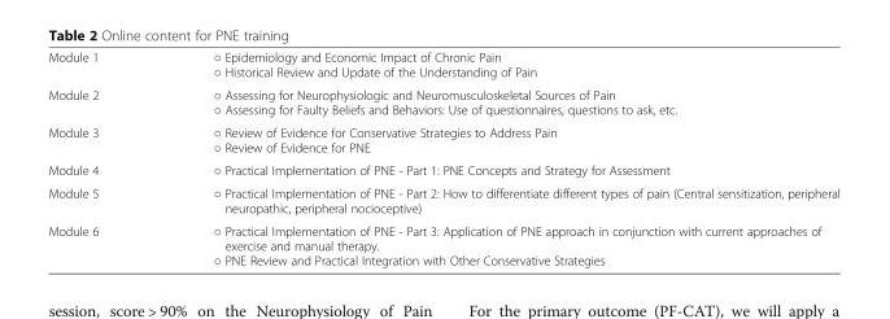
<table><tbody><tr><td>Module 1</td><td>○ Epidemiology and Economic Impact of Chronic Pain ○ Historical Review and Update of the Understanding of Pain</td></tr><tr><td>Module 2</td><td>○ Assessing for Neurophysiologic and Neuromusculoskeletal Sources of Pain ○ Assessing for Faulty Beliefs and Behaviors: Use of questionnaires, questions to ask, etc.</td></tr><tr><td>Module 3</td><td>○ Review of Evidence for Conservative Strategies to Address Pain ○ Review of Evidence for PNE</td></tr><tr><td>Module 4</td><td>○ Practical Implementation of PNE - Part 1: PNE Concepts and Strategy for Assessment</td></tr><tr><td>Module 5</td><td>○ Practical Implementation of PNE - Part 2: How to differentiate different types of pain (Central sensitization, peripheral neuropathic, peripheral nocioceptive)</td></tr><tr><td>Module 6</td><td>○ Practical Implementation of PNE - Part 3: Application of PNE approach in conjunction with current approaches of exercise and manual therapy. ○ PNE Review and Practical Integration with Other Conservative Strategies</td></tr></tbody></table>